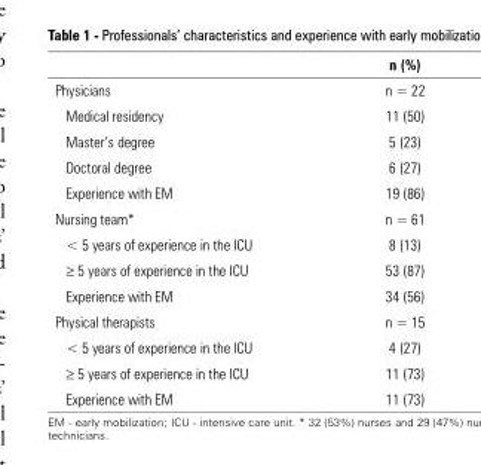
<table><thead><tr><td></td><td>n (%)</td></tr></thead><tbody><tr><td>Physicians</td><td>n = 22</td></tr><tr><td>Medical residency</td><td>11 (50)</td></tr><tr><td>Master’s degree</td><td>5 (23)</td></tr><tr><td>Doctoral degree</td><td>6 (27)</td></tr><tr><td>Experience with EM</td><td>19 (86)</td></tr><tr><td>Nursing team*</td><td>n = 61</td></tr><tr><td>&lt; 5 years of experience in the ICU</td><td>8 (13)</td></tr><tr><td>≥ 5 years of experience in the ICU</td><td>53 (87)</td></tr><tr><td>Experience with EM</td><td>34 (56)</td></tr><tr><td>Physical therapists</td><td>n = 15</td></tr><tr><td>&lt; 5 years of experience in the ICU</td><td>4 (27)</td></tr><tr><td>≥ 5 years of experience in the ICU</td><td>11 (73)</td></tr><tr><td>Experience with EM</td><td>11 (73)</td></tr></tbody></table>